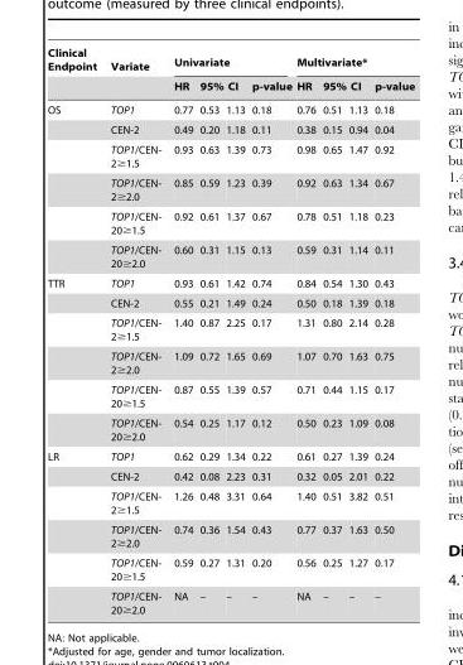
<table><thead><tr><td rowspan="3">Clinical Endpoint OS</td><td rowspan="3">Variate TOP1</td><td colspan="4">Univariate</td><td colspan="4">Multivariate*</td></tr><tr><td rowspan="2">HR 0.77</td><td colspan="2">95% CI</td><td rowspan="2">p-value 0.18</td><td rowspan="2">HR 0.76</td><td colspan="2">95% CI</td><td rowspan="2">p-value 0.18</td></tr><tr><td>0.53</td><td>1.13</td><td>0.51</td><td>1.13</td></tr></thead><tbody><tr><td></td><td>CEN-2</td><td>0.49</td><td>0.20</td><td>1.18</td><td>0.11</td><td>0.38</td><td>0.15</td><td>0.94</td><td>0.04</td></tr><tr><td></td><td>TOP1/CEN- 2≥1.5</td><td>0.93</td><td>0.63</td><td>1.39</td><td>0.73</td><td>0.98</td><td>0.65</td><td>1.47</td><td>0.92</td></tr><tr><td></td><td>TOP1/CEN- 2≥2.0</td><td>0.85</td><td>0.59</td><td>1.23</td><td>0.39</td><td>0.92</td><td>0.63</td><td>1.34</td><td>0.67</td></tr><tr><td></td><td>TOP1/CEN- 20≥1.5</td><td>0.92</td><td>0.61</td><td>1.37</td><td>0.67</td><td>0.78</td><td>0.51</td><td>1.18</td><td>0.23</td></tr><tr><td></td><td>TOP1/CEN- 20≥2.0</td><td>0.60</td><td>0.31</td><td>1.15</td><td>0.13</td><td>0.59</td><td>0.31</td><td>1.14</td><td>0.11</td></tr><tr><td rowspan="6">TTR</td><td>TOP1</td><td>0.93</td><td>0.61</td><td>1.42</td><td>0.74</td><td>0.84</td><td>0.54</td><td>1.30</td><td>0.43</td></tr><tr><td>CEN-2</td><td>0.55</td><td>0.21</td><td>1.49</td><td>0.24</td><td>0.50</td><td>0.18</td><td>1.39</td><td>0.18</td></tr><tr><td>TOP1/CEN- 2≥1.5</td><td>1.40</td><td>0.87</td><td>2.25</td><td>0.17</td><td>1.31</td><td>0.80</td><td>2.14</td><td>0.28</td></tr><tr><td>TOP1/CEN- 2≥2.0</td><td>1.09</td><td>0.72</td><td>1.65</td><td>0.69</td><td>1.07</td><td>0.70</td><td>1.63</td><td>0.75</td></tr><tr><td>TOP1/CEN- 20≥1.5</td><td>0.87</td><td>0.55</td><td>1.39</td><td>0.57</td><td>0.71</td><td>0.44</td><td>1.15</td><td>0.17</td></tr><tr><td>TOP1/CEN- 20≥2.0</td><td>0.54</td><td>0.25</td><td>1.17</td><td>0.12</td><td>0.50</td><td>0.23</td><td>1.09</td><td>0.08</td></tr><tr><td rowspan="6">LR</td><td>TOP1</td><td>0.62</td><td>0.29</td><td>1.34</td><td>0.22</td><td>0.61</td><td>0.27</td><td>1.39</td><td>0.24</td></tr><tr><td>CEN-2</td><td>0.42</td><td>0.08</td><td>2.23</td><td>0.31</td><td>0.32</td><td>0.05</td><td>2.01</td><td>0.22</td></tr><tr><td>TOP1/CEN- 2≥1.5</td><td>1.26</td><td>0.48</td><td>3.31</td><td>0.64</td><td>1.40</td><td>0.51</td><td>3.82</td><td>0.51</td></tr><tr><td>TOP1/CEN- 2≥2.0</td><td>0.74</td><td>0.36</td><td>1.54</td><td>0.43</td><td>0.77</td><td>0.37</td><td>1.63</td><td>0.50</td></tr><tr><td>TOP1/CEN- 20≥1.5</td><td>0.59</td><td>0.27</td><td>1.31</td><td>0.20</td><td>0.56</td><td>0.25</td><td>1.27</td><td>0.17</td></tr><tr><td>TOP1/CEN- 20≥2.0</td><td>NA</td><td>–</td><td>–</td><td>–</td><td>NA</td><td>–</td><td>–</td><td>–</td></tr></tbody></table>